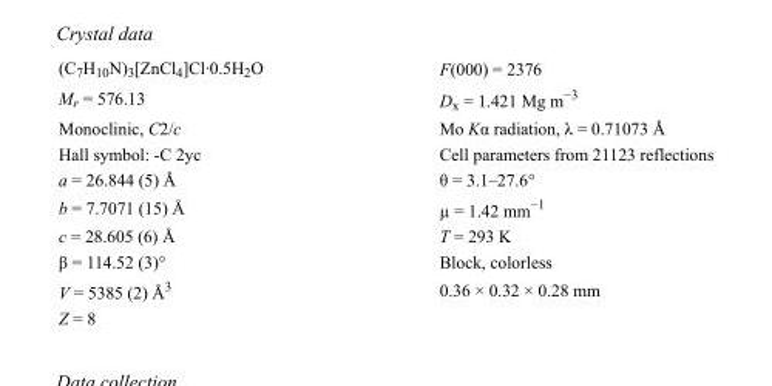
<table><tbody><tr><td>(C<sub>7</sub>H<sub>10</sub>N)<sub>3</sub>[ZnCl<sub>4</sub>]Cl·0.5H<sub>2</sub>O</td><td>F(000) = 2376</td></tr><tr><td>M<sub>r</sub> = 576.13</td><td>D<sub>x</sub> = 1.421 Mg m<sup>−3</sup></td></tr><tr><td>Monoclinic, C2/c</td><td>Mo Kα radiation, λ = 0.71073 Å</td></tr><tr><td>Hall symbol: -C 2yc</td><td>Cell parameters from 21123 reflections</td></tr><tr><td>a = 26.844 (5) Å</td><td>θ = 3.1–27.6°</td></tr><tr><td>b = 7.7071 (15) Å</td><td>µ = 1.42 mm<sup>−1</sup></td></tr><tr><td>c = 28.605 (6) Å</td><td>T = 293 K</td></tr><tr><td>β = 114.52 (3)°</td><td>Block, colorless</td></tr><tr><td>V = 5385 (2) Å<sup>3</sup></td><td>0.36 × 0.32 × 0.28 mm</td></tr><tr><td>Z = 8</td><td></td></tr></tbody></table>